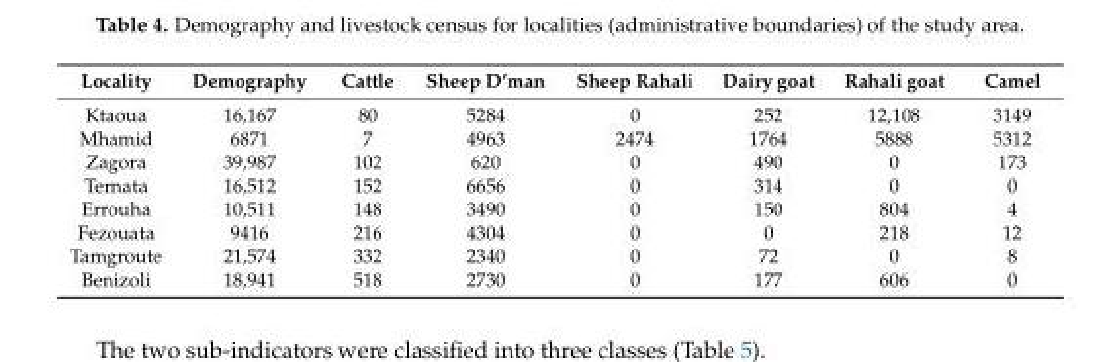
<table><thead><tr><td>Locality</td><td>Demography</td><td>Cattle</td><td>Sheep D’man</td><td>Sheep Rahali</td><td>Dairy goat</td><td>Rahali goat</td><td>Camel</td></tr></thead><tbody><tr><td>Ktaoua</td><td>16,167</td><td>80</td><td>5284</td><td>0</td><td>252</td><td>12,108</td><td>3149</td></tr><tr><td>Mhamid</td><td>6871</td><td>7</td><td>4963</td><td>2474</td><td>1764</td><td>5888</td><td>5312</td></tr><tr><td>Zagora</td><td>39,987</td><td>102</td><td>620</td><td>0</td><td>490</td><td>0</td><td>173</td></tr><tr><td>Ternata</td><td>16,512</td><td>152</td><td>6656</td><td>0</td><td>314</td><td>0</td><td>0</td></tr><tr><td>Errouha</td><td>10,511</td><td>148</td><td>3490</td><td>0</td><td>150</td><td>804</td><td>4</td></tr><tr><td>Fezouata</td><td>9416</td><td>216</td><td>4304</td><td>0</td><td>0</td><td>218</td><td>12</td></tr><tr><td>Tamgroute</td><td>21,574</td><td>332</td><td>2340</td><td>0</td><td>72</td><td>0</td><td>8</td></tr><tr><td>Benizoli</td><td>18,941</td><td>518</td><td>2730</td><td>0</td><td>177</td><td>606</td><td>0</td></tr></tbody></table>